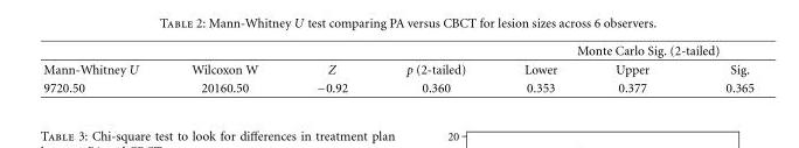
<table><thead><tr><td rowspan="2">Mann-Whitney U</td><td rowspan="2">Wilcoxon W</td><td rowspan="2">Z</td><td rowspan="2">p (2-tailed)</td><td colspan="3">Monte Carlo Sig. (2-tailed)</td></tr><tr><td>Lower</td><td>Upper</td><td>Sig.</td></tr></thead><tbody><tr><td>9720.50</td><td>20160.50</td><td>−0.92</td><td>0.360</td><td>0.353</td><td>0.377</td><td>0.365</td></tr></tbody></table>